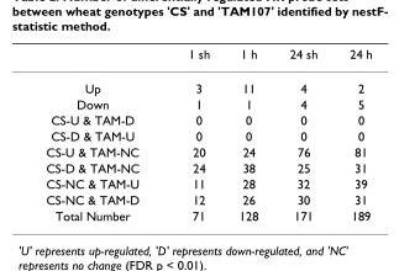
<table><thead><tr><td></td><td>1 sh</td><td>1 h</td><td>24 sh</td><td>24 h</td></tr></thead><tbody><tr><td>Up</td><td>3</td><td>11</td><td>4</td><td>2</td></tr><tr><td>Down</td><td>1</td><td>1</td><td>4</td><td>5</td></tr><tr><td>CS-U &amp; TAM-D</td><td>0</td><td>0</td><td>0</td><td>0</td></tr><tr><td>CS-D &amp; TAM-U</td><td>0</td><td>0</td><td>0</td><td>0</td></tr><tr><td>CS-U &amp; TAM-NC</td><td>20</td><td>24</td><td>76</td><td>81</td></tr><tr><td>CS-D &amp; TAM-NC</td><td>24</td><td>38</td><td>25</td><td>31</td></tr><tr><td>CS-NC &amp; TAM-U</td><td>11</td><td>28</td><td>32</td><td>39</td></tr><tr><td>CS-NC &amp; TAM-D</td><td>12</td><td>26</td><td>30</td><td>31</td></tr><tr><td>Total Number</td><td>71</td><td>128</td><td>171</td><td>189</td></tr></tbody></table>